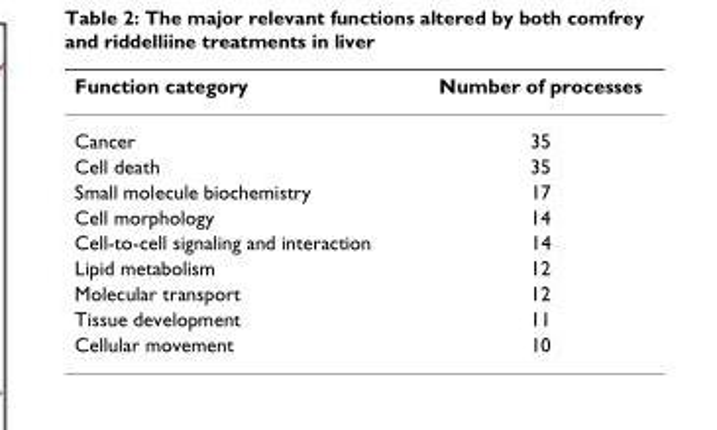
<table><thead><tr><td>Function category</td><td>Number of processes</td></tr></thead><tbody><tr><td>Cancer</td><td>35</td></tr><tr><td>Cell death</td><td>35</td></tr><tr><td>Small molecule biochemistry</td><td>17</td></tr><tr><td>Cell morphology</td><td>14</td></tr><tr><td>Cell-to-cell signaling and interaction</td><td>14</td></tr><tr><td>Lipid metabolism</td><td>12</td></tr><tr><td>Molecular transport</td><td>12</td></tr><tr><td>Tissue development</td><td>11</td></tr><tr><td>Cellular movement</td><td>10</td></tr></tbody></table>